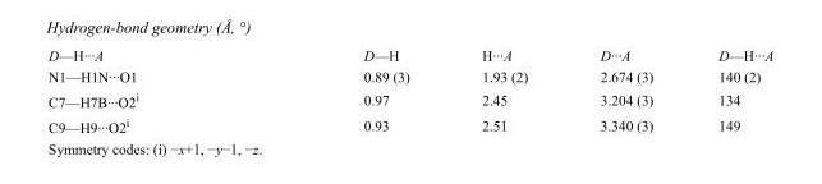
<table><tbody><tr><td>D—H···A</td><td>D—H</td><td>H···A</td><td>D···A</td><td>D—H···A</td></tr><tr><td>N1—H1N···O1</td><td>0.89 (3)</td><td>1.93 (2)</td><td>2.674 (3)</td><td>140 (2)</td></tr><tr><td>C7—H7B···O2<sup>i</sup></td><td>0.97</td><td>2.45</td><td>3.204 (3)</td><td>134</td></tr><tr><td>C9—H9···O2<sup>i</sup></td><td>0.93</td><td>2.51</td><td>3.340 (3)</td><td>149</td></tr></tbody></table>